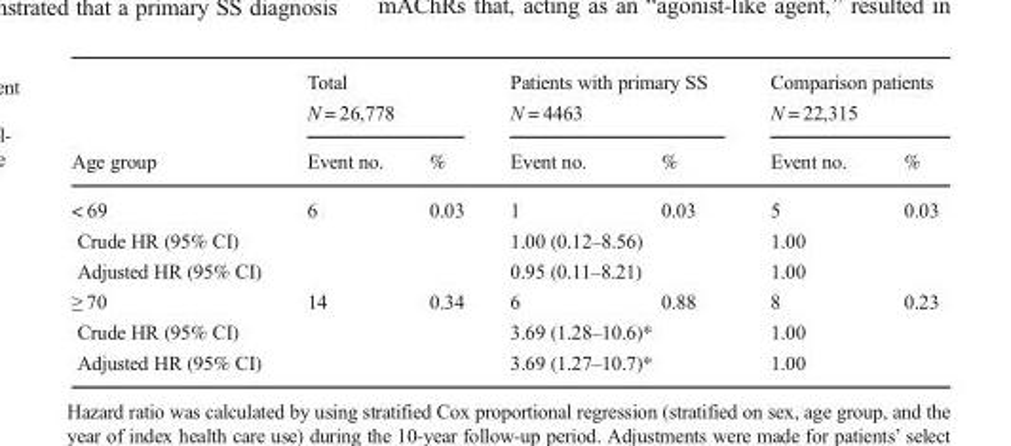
<table><thead><tr><td rowspan="2">Age group</td><td colspan="2">Total N = 26,778</td><td colspan="2">Patients with primary SS N = 4463</td><td colspan="2">Comparison patients N = 22,315</td></tr><tr><td>Event no.</td><td>%</td><td>Event no.</td><td>%</td><td>Event no.</td><td>%</td></tr></thead><tbody><tr><td>&lt; 69</td><td>6</td><td>0.03</td><td>1</td><td>0.03</td><td>5</td><td>0.03</td></tr><tr><td>Crude HR (95% CI)</td><td colspan="2"></td><td colspan="2">1.00 (0.12–8.56)</td><td colspan="2">1.00</td></tr><tr><td>Adjusted HR (95% CI)</td><td colspan="2"></td><td colspan="2">0.95 (0.11–8.21)</td><td colspan="2">1.00</td></tr><tr><td>≥ 70</td><td>14</td><td>0.34</td><td>6</td><td>0.88</td><td>8</td><td>0.23</td></tr><tr><td>Crude HR (95% CI)</td><td colspan="2"></td><td colspan="2">3.69 (1.28–10.6)*</td><td colspan="2">1.00</td></tr><tr><td>Adjusted HR (95% CI)</td><td colspan="2"></td><td colspan="2">3.69 (1.27–10.7)*</td><td colspan="2">1.00</td></tr></tbody></table>